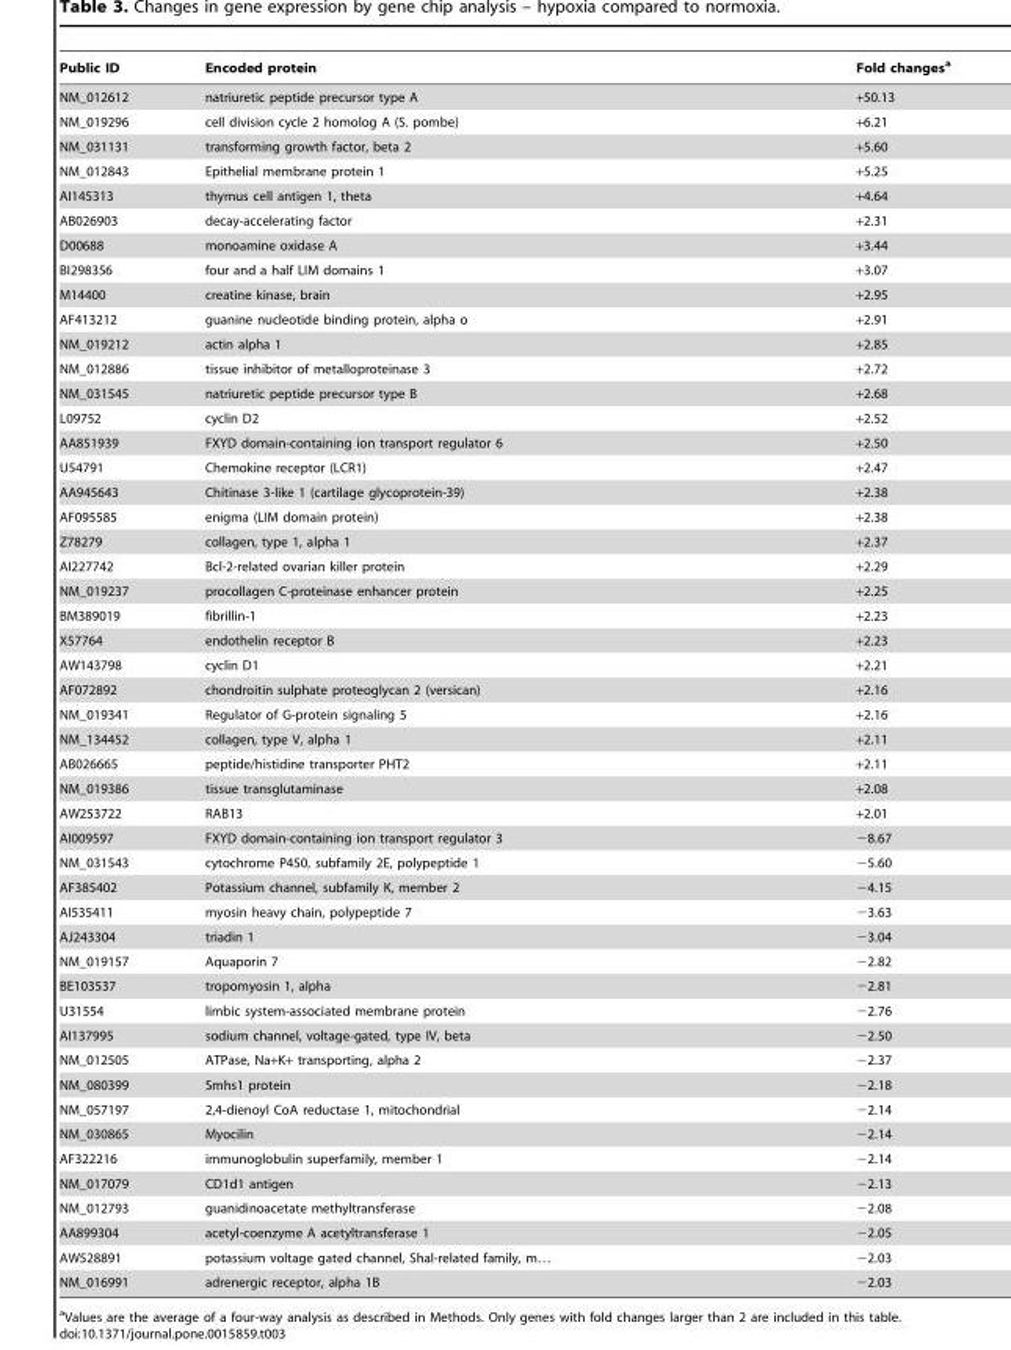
<table><thead><tr><td>Public ID</td><td>Encoded protein</td><td>Fold changes<sup>a</sup></td></tr></thead><tbody><tr><td>NM_012612</td><td>natriuretic peptide precursor type A</td><td>+50.13</td></tr><tr><td>NM_019296</td><td>cell division cycle 2 homolog A (S. pombe)</td><td>+6.21</td></tr><tr><td>NM_031131</td><td>transforming growth factor, beta 2</td><td>+5.60</td></tr><tr><td>NM_012843</td><td>Epithelial membrane protein 1</td><td>+5.25</td></tr><tr><td>AI145313</td><td>thymus cell antigen 1, theta</td><td>+4.64</td></tr><tr><td>AB026903</td><td>decay-accelerating factor</td><td>+2.31</td></tr><tr><td>D00688</td><td>monoamine oxidase A</td><td>+3.44</td></tr><tr><td>BI298356</td><td>four and a half LIM domains 1</td><td>+3.07</td></tr><tr><td>M14400</td><td>creatine kinase, brain</td><td>+2.95</td></tr><tr><td>AF413212</td><td>guanine nucleotide binding protein, alpha o</td><td>+2.91</td></tr><tr><td>NM_019212</td><td>actin alpha 1</td><td>+2.85</td></tr><tr><td>NM_012886</td><td>tissue inhibitor of metalloproteinase 3</td><td>+2.72</td></tr><tr><td>NM_031545</td><td>natriuretic peptide precursor type B</td><td>+2.68</td></tr><tr><td>L09752</td><td>cyclin D2</td><td>+2.52</td></tr><tr><td>AA851939</td><td>FXYD domain-containing ion transport regulator 6</td><td>+2.50</td></tr><tr><td>U54791</td><td>Chemokine receptor (LCR1)</td><td>+2.47</td></tr><tr><td>AA945643</td><td>Chitinase 3-like 1 (cartilage glycoprotein-39)</td><td>+2.38</td></tr><tr><td>AF095585</td><td>enigma (LIM domain protein)</td><td>+2.38</td></tr><tr><td>Z78279</td><td>collagen, type 1, alpha 1</td><td>+2.37</td></tr><tr><td>AI227742</td><td>Bcl-2-related ovarian killer protein</td><td>+2.29</td></tr><tr><td>NM_019237</td><td>procollagen C-proteinase enhancer protein</td><td>+2.25</td></tr><tr><td>BM389019</td><td>fibrillin-1</td><td>+2.23</td></tr><tr><td>X57764</td><td>endothelin receptor B</td><td>+2.23</td></tr><tr><td>AW143798</td><td>cyclin D1</td><td>+2.21</td></tr><tr><td>AF072892</td><td>chondroitin sulphate proteoglycan 2 (versican)</td><td>+2.16</td></tr><tr><td>NM_019341</td><td>Regulator of G-protein signaling 5</td><td>+2.16</td></tr><tr><td>NM_134452</td><td>collagen, type V, alpha 1</td><td>+2.11</td></tr><tr><td>AB026665</td><td>peptide/histidine transporter PHT2</td><td>+2.11</td></tr><tr><td>NM_019386</td><td>tissue transglutaminase</td><td>+2.08</td></tr><tr><td>AW253722</td><td>RAB13</td><td>+2.01</td></tr><tr><td>AI009597</td><td>FXYD domain-containing ion transport regulator 3</td><td>−8.67</td></tr><tr><td>NM_031543</td><td>cytochrome P450, subfamily 2E, polypeptide 1</td><td>−5.60</td></tr><tr><td>AF385402</td><td>Potassium channel, subfamily K, member 2</td><td>−4.15</td></tr><tr><td>AI535411</td><td>myosin heavy chain, polypeptide 7</td><td>−3.63</td></tr><tr><td>AJ243304</td><td>triadin 1</td><td>−3.04</td></tr><tr><td>NM_019157</td><td>Aquaporin 7</td><td>−2.82</td></tr><tr><td>BE103537</td><td>tropomyosin 1, alpha</td><td>−2.81</td></tr><tr><td>U31554</td><td>limbic system-associated membrane protein</td><td>−2.76</td></tr><tr><td>AI137995</td><td>sodium channel, voltage-gated, type IV, beta</td><td>−2.50</td></tr><tr><td>NM_012505</td><td>ATPase, Na+K+ transporting, alpha 2</td><td>−2.37</td></tr><tr><td>NM_080399</td><td>Smhs1 protein</td><td>−2.18</td></tr><tr><td>NM_057197</td><td>2,4-dienoyl CoA reductase 1, mitochondrial</td><td>−2.14</td></tr><tr><td>NM_030865</td><td>Myocilin</td><td>−2.14</td></tr><tr><td>AF322216</td><td>immunoglobulin superfamily, member 1</td><td>−2.14</td></tr><tr><td>NM_017079</td><td>CD1d1 antigen</td><td>−2.13</td></tr><tr><td>NM_012793</td><td>guanidinoacetate methyltransferase</td><td>−2.08</td></tr><tr><td>AA899304</td><td>acetyl-coenzyme A acetyltransferase 1</td><td>−2.05</td></tr><tr><td>AW528891</td><td>potassium voltage gated channel, Shal-related family, m…</td><td>−2.03</td></tr><tr><td>NM_016991</td><td>adrenergic receptor, alpha 1B</td><td>−2.03</td></tr></tbody></table>